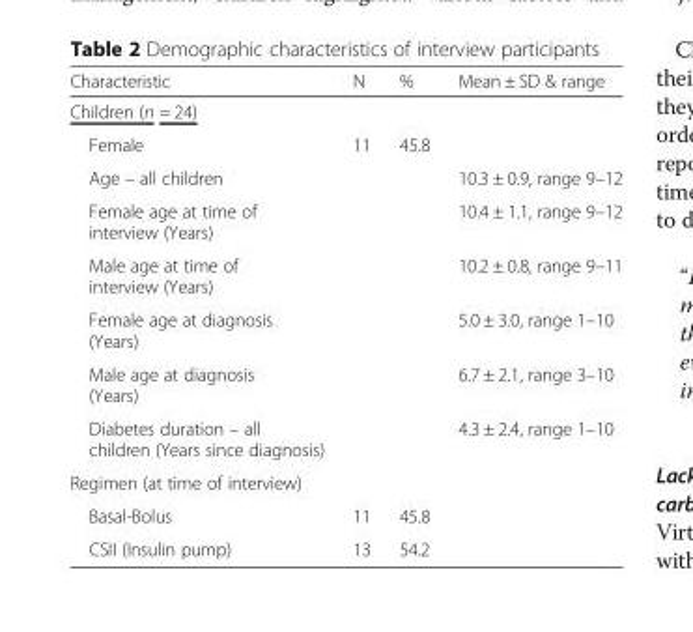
<table><thead><tr><td>Characteristic</td><td>N</td><td>%</td><td>Mean ± SD &amp; range</td></tr></thead><tbody><tr><td colspan="4">Children (n = 24)</td></tr><tr><td>Female</td><td>11</td><td>45.8</td><td></td></tr><tr><td>Age – all children</td><td></td><td></td><td>10.3 ± 0.9, range 9–12</td></tr><tr><td>Female age at time of interview (Years)</td><td></td><td></td><td>10.4 ± 1.1, range 9–12</td></tr><tr><td>Male age at time of interview (Years)</td><td></td><td></td><td>10.2 ± 0.8, range 9–11</td></tr><tr><td>Female age at diagnosis (Years)</td><td></td><td></td><td>5.0 ± 3.0, range 1–10</td></tr><tr><td>Male age at diagnosis (Years)</td><td></td><td></td><td>6.7 ± 2.1, range 3–10</td></tr><tr><td>Diabetes duration – all children (Years since diagnosis)</td><td></td><td></td><td>4.3 ± 2.4, range 1–10</td></tr><tr><td colspan="4">Regimen (at time of interview)</td></tr><tr><td>Basal-Bolus</td><td>11</td><td>45.8</td><td></td></tr><tr><td>CSII (Insulin pump)</td><td>13</td><td>54.2</td><td></td></tr></tbody></table>